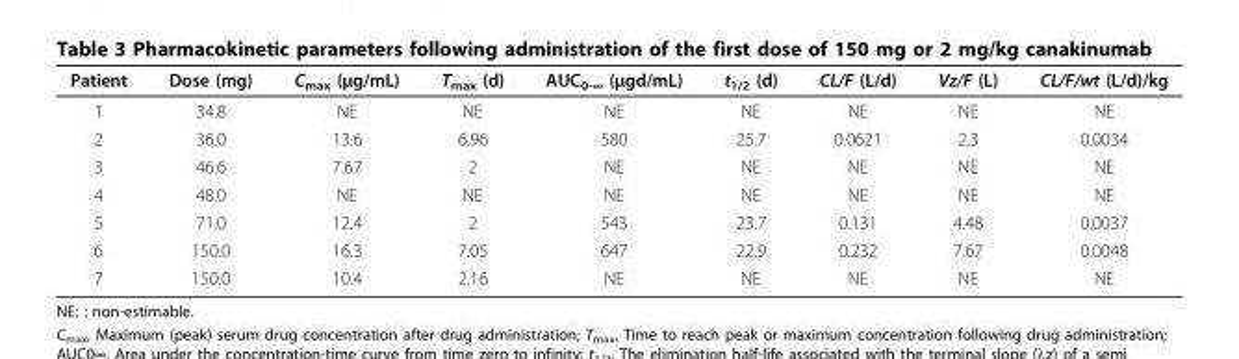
<table><thead><tr><td>Patient</td><td>Dose (mg)</td><td>C<sub>max</sub> (μg/mL)</td><td>T<sub>max</sub> (d)</td><td>AUC<sub>0-∞</sub> (μgd/mL)</td><td>t<sub>1/2</sub> (d)</td><td>CL/F (L/d)</td><td>Vz/F (L)</td><td>CL/F/wt (L/d)/kg</td></tr></thead><tbody><tr><td>1</td><td>34.8</td><td>NE</td><td>NE</td><td>NE</td><td>NE</td><td>NE</td><td>NE</td><td>NE</td></tr><tr><td>2</td><td>36.0</td><td>13.6</td><td>6.96</td><td>580</td><td>25.7</td><td>0.0621</td><td>2.3</td><td>0.0034</td></tr><tr><td>3</td><td>46.6</td><td>7.67</td><td>2</td><td>NE</td><td>NE</td><td>NE</td><td>NE</td><td>NE</td></tr><tr><td>4</td><td>48.0</td><td>NE</td><td>NE</td><td>NE</td><td>NE</td><td>NE</td><td>NE</td><td>NE</td></tr><tr><td>5</td><td>71.0</td><td>12.4</td><td>2</td><td>543</td><td>23.7</td><td>0.131</td><td>4.48</td><td>0.0037</td></tr><tr><td>6</td><td>150.0</td><td>16.3</td><td>7.05</td><td>647</td><td>22.9</td><td>0.232</td><td>7.67</td><td>0.0048</td></tr><tr><td>7</td><td>150.0</td><td>10.4</td><td>2.16</td><td>NE</td><td>NE</td><td>NE</td><td>NE</td><td>NE</td></tr></tbody></table>